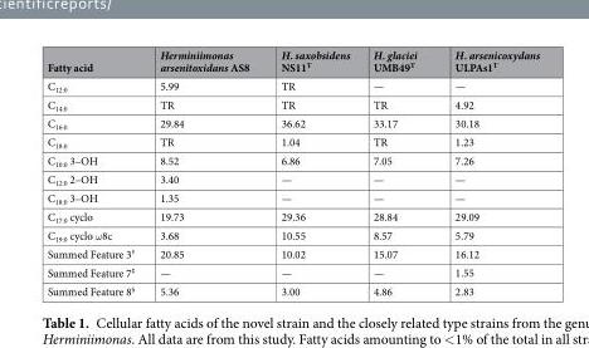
<table><thead><tr><td>Fatty acid</td><td>Herminiimonas arsenitoxidans AS8</td><td>H. saxobsidens NS11<sup>T</sup></td><td>H. glaciei UMB49<sup>T</sup></td><td>H. arsenicoxydans ULPAs1<sup>T</sup></td></tr></thead><tbody><tr><td>C<sub>12:0</sub></td><td>5.99</td><td>TR</td><td>—</td><td>—</td></tr><tr><td>C<sub>14:0</sub></td><td>TR</td><td>TR</td><td>TR</td><td>4.92</td></tr><tr><td>C<sub>16:0</sub></td><td>29.84</td><td>36.62</td><td>33.17</td><td>30.18</td></tr><tr><td>C<sub>18:0</sub></td><td>TR</td><td>1.04</td><td>TR</td><td>1.23</td></tr><tr><td>C<sub>10:0</sub> 3–OH</td><td>8.52</td><td>6.86</td><td>7.05</td><td>7.26</td></tr><tr><td>C<sub>12:0</sub> 2–OH</td><td>3.40</td><td>—</td><td>—</td><td>—</td></tr><tr><td>C<sub>18:0</sub> 3–OH</td><td>1.35</td><td>—</td><td>—</td><td>—</td></tr><tr><td>C<sub>17:0</sub> cyclo</td><td>19.73</td><td>29.36</td><td>28.84</td><td>29.09</td></tr><tr><td>C<sub>19:0</sub> cyclo ω8c</td><td>3.68</td><td>10.55</td><td>8.57</td><td>5.79</td></tr><tr><td>Summed Feature 3<sup>†</sup></td><td>20.85</td><td>10.02</td><td>15.07</td><td>16.12</td></tr><tr><td>Summed Feature 7<sup>‡</sup></td><td>—</td><td>—</td><td>—</td><td>1.55</td></tr><tr><td>Summed Feature 8<sup>§</sup></td><td>5.36</td><td>3.00</td><td>4.86</td><td>2.83</td></tr></tbody></table>